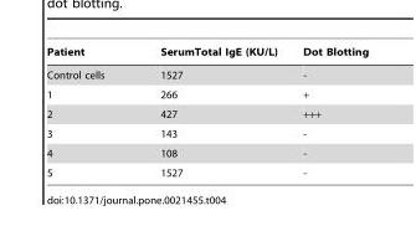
<table><thead><tr><td>Patient</td><td>SerumTotal IgE (KU/L)</td><td>Dot Blotting</td></tr></thead><tbody><tr><td>Control cells</td><td>1527</td><td>-</td></tr><tr><td>1</td><td>266</td><td>+</td></tr><tr><td>2</td><td>427</td><td>+++</td></tr><tr><td>3</td><td>143</td><td>-</td></tr><tr><td>4</td><td>108</td><td>-</td></tr><tr><td>5</td><td>1527</td><td>-</td></tr></tbody></table>